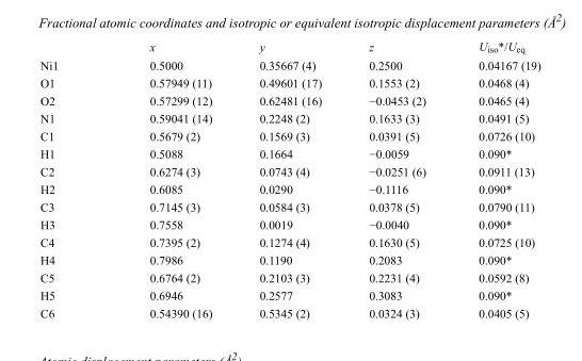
<table><thead><tr><td></td><td>x</td><td>y</td><td>z</td><td>U<sub>iso</sub>*/U<sub>eq</sub></td></tr></thead><tbody><tr><td>Ni1</td><td>0.5000</td><td>0.35667 (4)</td><td>0.2500</td><td>0.04167 (19)</td></tr><tr><td>O1</td><td>0.57949 (11)</td><td>0.49601 (17)</td><td>0.1553 (2)</td><td>0.0468 (4)</td></tr><tr><td>O2</td><td>0.57299 (12)</td><td>0.62481 (16)</td><td>−0.0453 (2)</td><td>0.0465 (4)</td></tr><tr><td>N1</td><td>0.59041 (14)</td><td>0.2248 (2)</td><td>0.1633 (3)</td><td>0.0491 (5)</td></tr><tr><td>C1</td><td>0.5679 (2)</td><td>0.1569 (3)</td><td>0.0391 (5)</td><td>0.0726 (10)</td></tr><tr><td>H1</td><td>0.5088</td><td>0.1664</td><td>−0.0059</td><td>0.090*</td></tr><tr><td>C2</td><td>0.6274 (3)</td><td>0.0743 (4)</td><td>−0.0251 (6)</td><td>0.0911 (13)</td></tr><tr><td>H2</td><td>0.6085</td><td>0.0290</td><td>−0.1116</td><td>0.090*</td></tr><tr><td>C3</td><td>0.7145 (3)</td><td>0.0584 (3)</td><td>0.0378 (5)</td><td>0.0790 (11)</td></tr><tr><td>H3</td><td>0.7558</td><td>0.0019</td><td>−0.0040</td><td>0.090*</td></tr><tr><td>C4</td><td>0.7395 (2)</td><td>0.1274 (4)</td><td>0.1630 (5)</td><td>0.0725 (10)</td></tr><tr><td>H4</td><td>0.7986</td><td>0.1190</td><td>0.2083</td><td>0.090*</td></tr><tr><td>C5</td><td>0.6764 (2)</td><td>0.2103 (3)</td><td>0.2231 (4)</td><td>0.0592 (8)</td></tr><tr><td>H5</td><td>0.6946</td><td>0.2577</td><td>0.3083</td><td>0.090*</td></tr><tr><td>C6</td><td>0.54390 (16)</td><td>0.5345 (2)</td><td>0.0324 (3)</td><td>0.0405 (5)</td></tr></tbody></table>